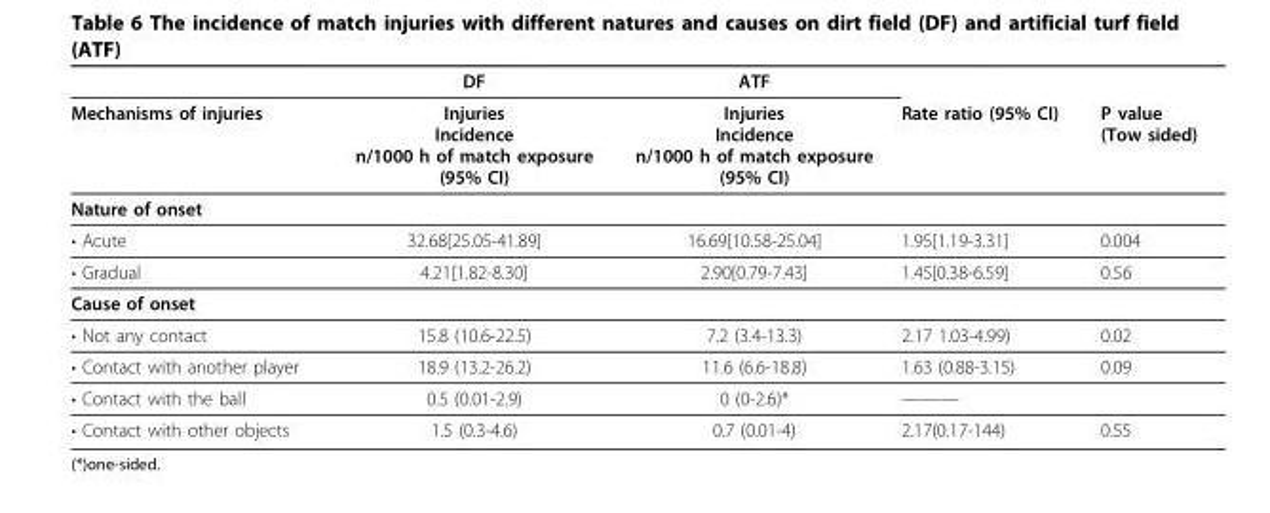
<table><thead><tr><td rowspan="2">Mechanisms of injuries</td><td rowspan="2">DF Injuries Incidence n/1000 h of match exposure (95% CI)</td><td rowspan="2">ATF Injuries Incidence n/1000 h of match exposure (95% CI)</td><td rowspan="2">Rate ratio (95% CI)</td><td rowspan="2">P value (Tow sided)</td></tr><tr></tr></thead><tbody><tr><td colspan="5">Nature of onset</td></tr><tr><td>• Acute</td><td>32.68[25.05-41.89]</td><td>16.69[10.58-25.04]</td><td>1.95[1.19-3.31]</td><td>0.004</td></tr><tr><td>• Gradual</td><td>4.21[1.82-8.30]</td><td>2.90[0.79-7.43]</td><td>1.45[0.38-6.59]</td><td>0.56</td></tr><tr><td colspan="5">Cause of onset</td></tr><tr><td>• Not any contact</td><td>15.8 (10.6-22.5)</td><td>7.2 (3.4-13.3)</td><td>2.17 1.03-4.99)</td><td>0.02</td></tr><tr><td>• Contact with another player</td><td>18.9 (13.2-26.2)</td><td>11.6 (6.6-18.8)</td><td>1.63 (0.88-3.15)</td><td>0.09</td></tr><tr><td>• Contact with the ball</td><td>0.5 (0.01-2.9)</td><td>0 (0-2.6)*</td><td>———</td><td></td></tr><tr><td>• Contact with other objects</td><td>1.5 (0.3-4.6)</td><td>0.7 (0.01-4)</td><td>2.17(0.17-144)</td><td>0.55</td></tr></tbody></table>